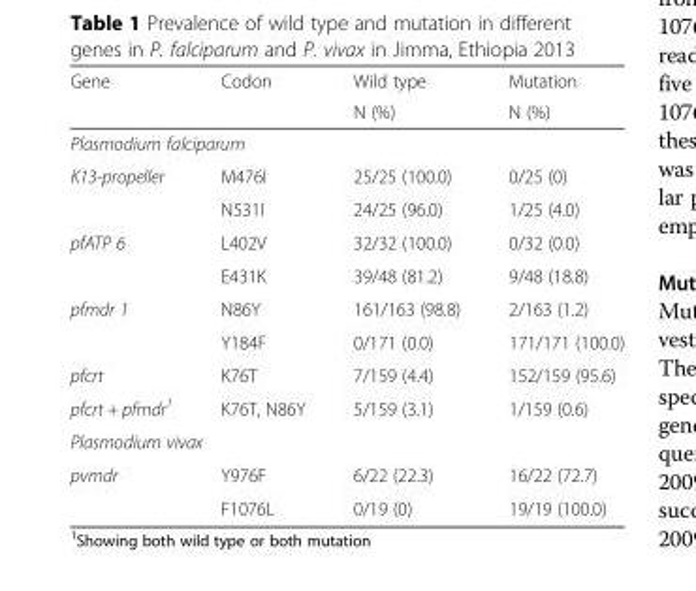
<table><thead><tr><td rowspan="2">Gene</td><td rowspan="2">Codon</td><td rowspan="2">Wild type N (%)</td><td rowspan="2">Mutation N (%)</td></tr><tr></tr></thead><tbody><tr><td colspan="4">Plasmodium falciparum</td></tr><tr><td rowspan="2">K13-propeller</td><td>M476I</td><td>25/25 (100.0)</td><td>0/25 (0)</td></tr><tr><td>N531I</td><td>24/25 (96.0)</td><td>1/25 (4.0)</td></tr><tr><td rowspan="2">pfATP 6</td><td>L402V</td><td>32/32 (100.0)</td><td>0/32 (0.0)</td></tr><tr><td>E431K</td><td>39/48 (81.2)</td><td>9/48 (18.8)</td></tr><tr><td rowspan="2">pfmdr 1</td><td>N86Y</td><td>161/163 (98.8)</td><td>2/163 (1.2)</td></tr><tr><td>Y184F</td><td>0/171 (0.0)</td><td>171/171 (100.0)</td></tr><tr><td>pfcrt</td><td>K76T</td><td>7/159 (4.4)</td><td>152/159 (95.6)</td></tr><tr><td>pfcrt + pfmdr<sup>1</sup></td><td>K76T, N86Y</td><td>5/159 (3.1)</td><td>1/159 (0.6)</td></tr><tr><td colspan="4">Plasmodium vivax</td></tr><tr><td rowspan="2">pvmdr</td><td>Y976F</td><td>6/22 (22.3)</td><td>16/22 (72.7)</td></tr><tr><td>F1076L</td><td>0/19 (0)</td><td>19/19 (100.0)</td></tr></tbody></table>